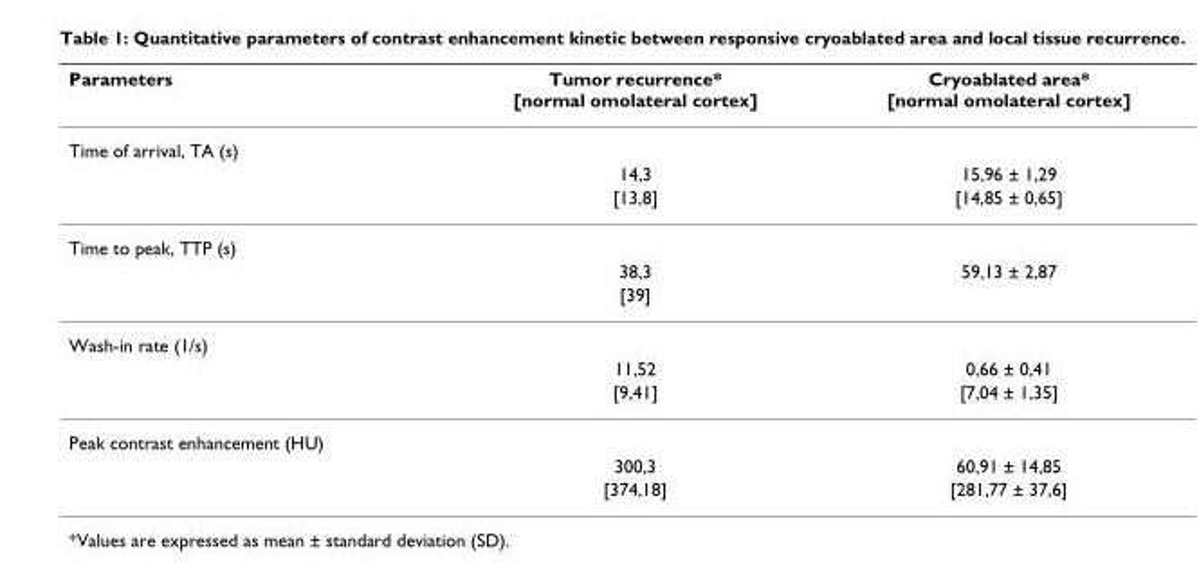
<table><thead><tr><td>Parameters</td><td>Tumor recurrence* [normal omolateral cortex]</td><td>Cryoablated area* [normal omolateral cortex]</td></tr></thead><tbody><tr><td colspan="3">Time of arrival, TA (s)</td></tr><tr><td></td><td>14,3</td><td>15,96 ± 1,29</td></tr><tr><td></td><td>[13,8]</td><td>[14,85 ± 0,65]</td></tr><tr><td colspan="3">Time to peak, TTP (s)</td></tr><tr><td></td><td>38,3</td><td>59,13 ± 2,87</td></tr><tr><td></td><td>[39]</td><td></td></tr><tr><td colspan="3">Wash-in rate (1/s)</td></tr><tr><td></td><td>11,52</td><td>0,66 ± 0,41</td></tr><tr><td></td><td>[9,41]</td><td>[7,04 ± 1,35]</td></tr><tr><td colspan="3">Peak contrast enhancement (HU)</td></tr><tr><td></td><td>300,3</td><td>60,91 ± 14,85</td></tr><tr><td></td><td>[374,18]</td><td>[281,77 ± 37,6]</td></tr></tbody></table>